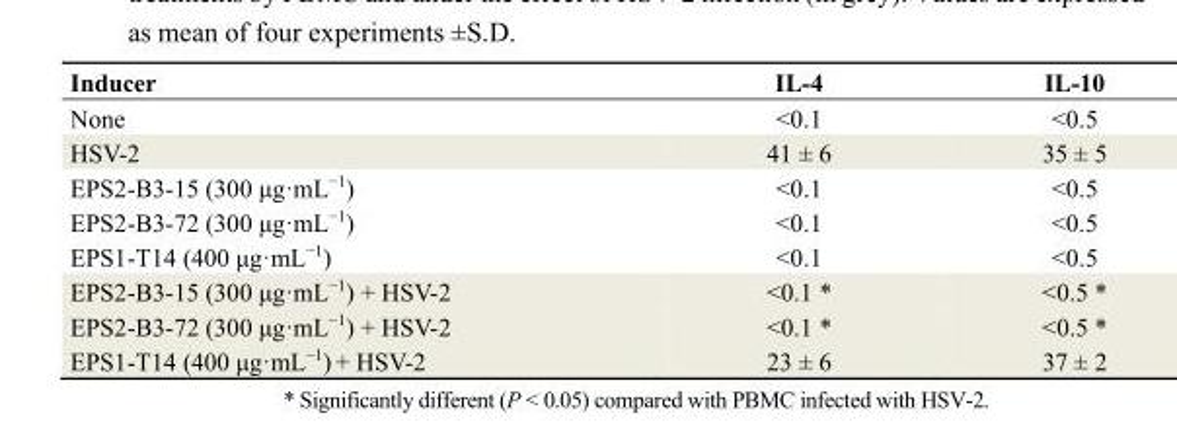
<table><thead><tr><td>Inducer</td><td>IL-4</td><td>IL-10</td></tr></thead><tbody><tr><td>None</td><td>˂0.1</td><td>˂0.5</td></tr><tr><td>HSV-2</td><td>41 ± 6</td><td>35 ± 5</td></tr><tr><td>EPS2-B3-15 (300 μg·mL<sup>−1</sup>)</td><td>˂0.1</td><td>˂0.5</td></tr><tr><td>EPS2-B3-72 (300 μg·mL<sup>−1</sup>)</td><td>˂0.1</td><td>˂0.5</td></tr><tr><td>EPS1-T14 (400 μg·mL<sup>−1</sup>)</td><td>˂0.1</td><td>˂0.5</td></tr><tr><td>EPS2-B3-15 (300 μg·mL<sup>−1</sup>) + HSV-2</td><td>˂0.1 *</td><td>˂0.5 *</td></tr><tr><td>EPS2-B3-72 (300 μg·mL<sup>−1</sup>) + HSV-2</td><td>˂0.1 *</td><td>˂0.5 *</td></tr><tr><td>EPS1-T14 (400 μg·mL<sup>−1</sup>) + HSV-2</td><td>23 ± 6</td><td>37 ± 2</td></tr></tbody></table>